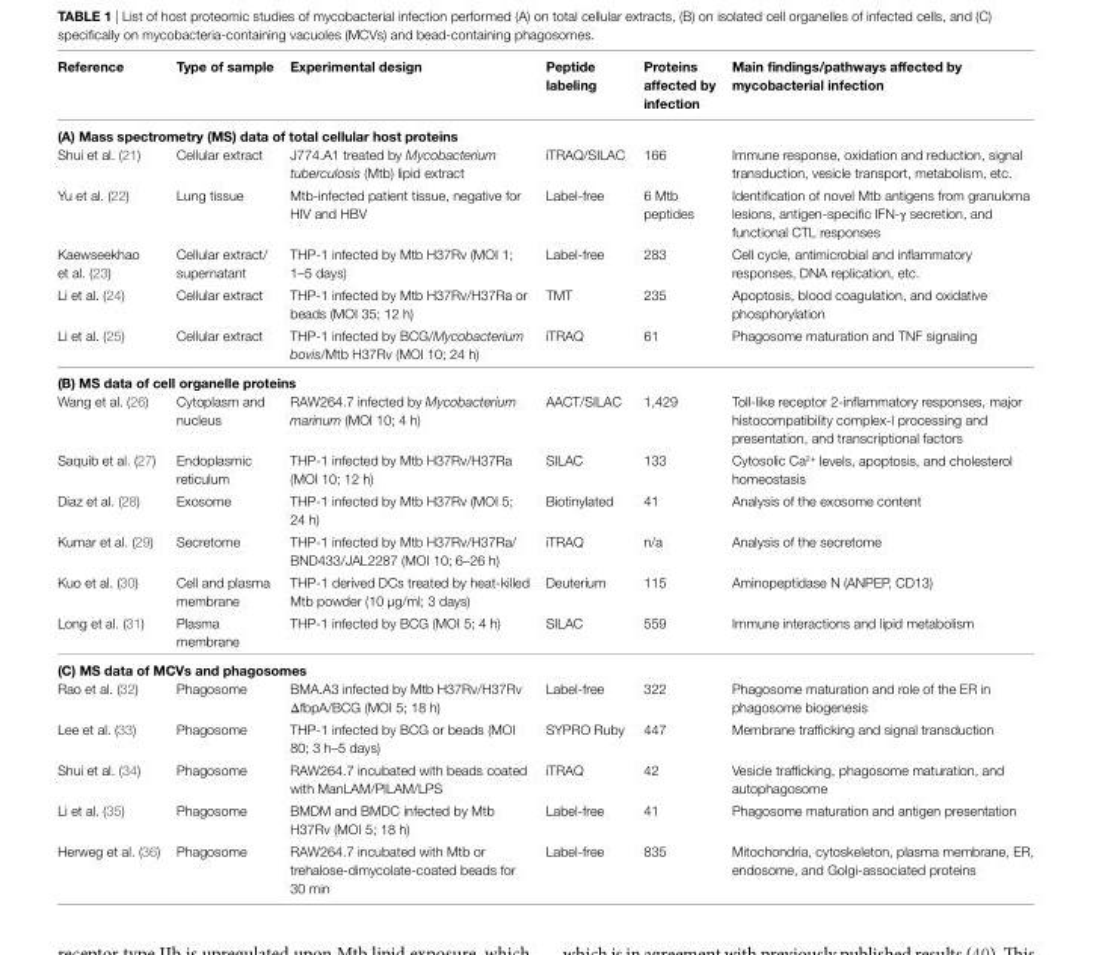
<table><thead><tr><td>Reference</td><td>Type of sample</td><td>experimental design</td><td>Peptide labeling</td><td>Proteins affected by infection</td><td>Main findings/pathways affected by mycobacterial infection</td></tr></thead><tbody><tr><td colspan="6">(A) Mass spectrometry (MS) data of total cellular host proteins</td></tr><tr><td>Shui et al. (21)</td><td>Cellular extract</td><td>J774.A1 treated by Mycobacterium tuberculosis (Mtb) lipid extract</td><td>iTRAQ/SILAC</td><td>166</td><td>Immune response, oxidation and reduction, signal transduction, vesicle transport, metabolism, etc.</td></tr><tr><td>Yu et al. (22)</td><td>Lung tissue</td><td>Mtb-infected patient tissue, negative for HIV and HBV</td><td>Label-free</td><td>6 Mtb peptides</td><td>Identification of novel Mtb antigens from granuloma lesions, antigen-specific IFN-γ secretion, and functional CTL responses</td></tr><tr><td>Kaewseekhao et al. (23)</td><td>Cellular extract/ supernatant</td><td>THP-1 infected by Mtb H37Rv (MOI 1; 1–5 days)</td><td>Label-free</td><td>283</td><td>Cell cycle, antimicrobial and inflammatory responses, DNA replication, etc.</td></tr><tr><td>Li et al. (24)</td><td>Cellular extract</td><td>THP-1 infected by Mtb H37Rv/H37Ra or beads (MOI 35; 12 h)</td><td>TMT</td><td>235</td><td>Apoptosis, blood coagulation, and oxidative phosphorylation</td></tr><tr><td>Li et al. (25)</td><td>Cellular extract</td><td>THP-1 infected by BCG/Mycobacterium bovis/Mtb H37Rv (MOI 10; 24 h)</td><td>iTRAQ</td><td>61</td><td>Phagosome maturation and TNF signaling</td></tr><tr><td colspan="6">(B) MS data of cell organelle proteins</td></tr><tr><td>Wang et al. (26)</td><td>Cytoplasm and nucleus</td><td>RAW264.7 infected by Mycobacterium marinum (MOI 10; 4 h)</td><td>AACT/SILAC</td><td>1,429</td><td>Toll-like receptor 2-inflammatory responses, major histocompatibility complex-I processing and presentation, and transcriptional factors</td></tr><tr><td>Saquib et al. (27)</td><td>Endoplasmic reticulum</td><td>THP-1 infected by Mtb H37Rv/H37Ra (MOI 10; 12 h)</td><td>SILAC</td><td>133</td><td>Cytosolic Ca<sup>2+</sup> levels, apoptosis, and cholesterol homeostasis</td></tr><tr><td>Diaz et al. (28)</td><td>Exosome</td><td>THP-1 infected by Mtb H37Rv (MOI 5; 24 h)</td><td>Biotinylated</td><td>41</td><td>Analysis of the exosome content</td></tr><tr><td>Kumar et al. (29)</td><td>Secretome</td><td>THP-1 infected by Mtb H37Rv/H37Ra/ BND433/JAL2287 (MOI 10; 6–26 h)</td><td>iTRAQ</td><td>n/a</td><td>Analysis of the secretome</td></tr><tr><td>Kuo et al. (30)</td><td>Cell and plasma membrane</td><td>THP-1 derived DCs treated by heat-killed Mtb powder (10 µg/ml; 3 days)</td><td>Deuterium</td><td>115</td><td>Aminopeptidase N (ANPEP, CD13)</td></tr><tr><td>Long et al. (31)</td><td>Plasma membrane</td><td>THP-1 infected by BCG (MOI 5; 4 h)</td><td>SILAC</td><td>559</td><td>Immune interactions and lipid metabolism</td></tr><tr><td colspan="6">(C) MS data of MCvs and phagosomes</td></tr><tr><td>Rao et al. (32)</td><td>Phagosome</td><td>BMA.A3 infected by Mtb H37Rv/H37Rv ΔfbpA/BCG (MOI 5; 18 h)</td><td>Label-free</td><td>322</td><td>Phagosome maturation and role of the ER in phagosome biogenesis</td></tr><tr><td>Lee et al. (33)</td><td>Phagosome</td><td>THP-1 infected by BCG or beads (MOI 80; 3 h–5 days)</td><td>SYPRO Ruby</td><td>447</td><td>Membrane trafficking and signal transduction</td></tr><tr><td>Shui et al. (34)</td><td>Phagosome</td><td>RAW264.7 incubated with beads coated with ManLAM/PILAM/LPS</td><td>iTRAQ</td><td>42</td><td>Vesicle trafficking, phagosome maturation, and autophagosome</td></tr><tr><td>Li et al. (35)</td><td>Phagosome</td><td>BMDM and BMDC infected by Mtb H37Rv (MOI 5; 18 h)</td><td>Label-free</td><td>41</td><td>Phagosome maturation and antigen presentation</td></tr><tr><td>Herweg et al. (36)</td><td>Phagosome</td><td>RAW264.7 incubated with Mtb or trehalose-dimycolate-coated beads for 30 min</td><td>Label-free</td><td>835</td><td>Mitochondria, cytoskeleton, plasma membrane, ER, endosome, and Golgi-associated proteins</td></tr></tbody></table>